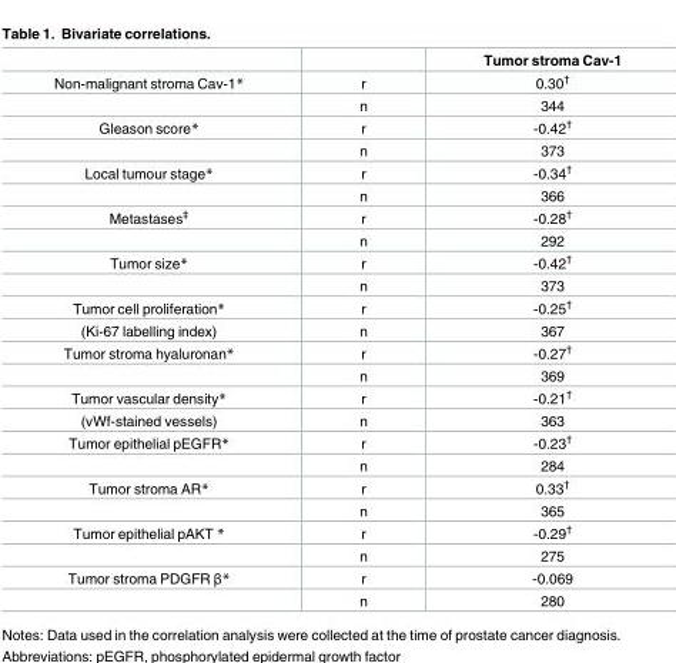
<table><thead><tr><td></td><td></td><td>Tumor stroma Cav-1</td></tr></thead><tbody><tr><td rowspan="2">Non-malignant stroma Cav-1*</td><td>r</td><td>0.30<sup>†</sup></td></tr><tr><td>n</td><td>344</td></tr><tr><td rowspan="2">Gleason score*</td><td>r</td><td>-0.42<sup>†</sup></td></tr><tr><td>n</td><td>373</td></tr><tr><td rowspan="2">Local tumour stage*</td><td>r</td><td>-0.34<sup>†</sup></td></tr><tr><td>n</td><td>366</td></tr><tr><td rowspan="2">Metastases<sup>‡</sup></td><td>r</td><td>-0.28<sup>†</sup></td></tr><tr><td>n</td><td>292</td></tr><tr><td rowspan="2">Tumor size*</td><td>r</td><td>-0.42<sup>†</sup></td></tr><tr><td>n</td><td>373</td></tr><tr><td>Tumor cell proliferation*</td><td>r</td><td>-0.25<sup>†</sup></td></tr><tr><td>(Ki-67 labelling index)</td><td>n</td><td>367</td></tr><tr><td rowspan="2">Tumor stroma hyaluronan*</td><td>r</td><td>-0.27<sup>†</sup></td></tr><tr><td>n</td><td>369</td></tr><tr><td>Tumor vascular density*</td><td>r</td><td>-0.21<sup>†</sup></td></tr><tr><td>(vWf-stained vessels)</td><td>n</td><td>363</td></tr><tr><td rowspan="2">Tumor epithelial pEGFR*</td><td>r</td><td>-0.23<sup>†</sup></td></tr><tr><td>n</td><td>284</td></tr><tr><td rowspan="2">Tumor stroma AR*</td><td>r</td><td>0.33<sup>†</sup></td></tr><tr><td>n</td><td>365</td></tr><tr><td rowspan="2">Tumor epithelial pAKT *</td><td>r</td><td>-0.29<sup>†</sup></td></tr><tr><td>n</td><td>275</td></tr><tr><td rowspan="2">Tumor stroma PDGFR β*</td><td>r</td><td>-0.069</td></tr><tr><td>n</td><td>280</td></tr></tbody></table>